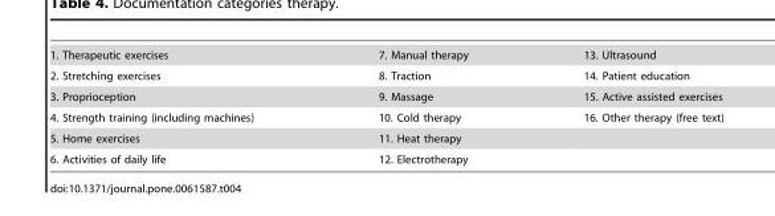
<table><tbody><tr><td>1. Therapeutic exercises</td><td>7. Manual therapy</td><td>13. Ultrasound</td></tr><tr><td>2. Stretching exercises</td><td>8. Traction</td><td>14. Patient education</td></tr><tr><td>3. Proprioception</td><td>9. Massage</td><td>15. Active assisted exercises</td></tr><tr><td>4. Strength training (including machines)</td><td>10. Cold therapy</td><td>16. Other therapy (free text)</td></tr><tr><td>5. Home exercises</td><td>11. Heat therapy</td><td></td></tr><tr><td>6. Activities of daily life</td><td>12. Electrotherapy</td><td></td></tr></tbody></table>